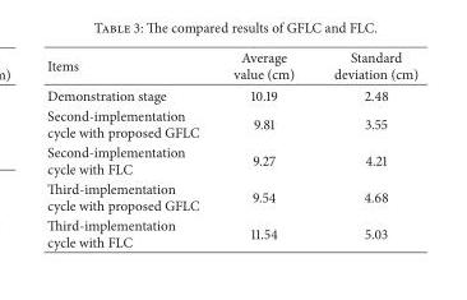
<table><thead><tr><td>Items</td><td>Average value (cm)</td><td>Standard deviation (cm)</td></tr></thead><tbody><tr><td>Demonstration stage</td><td>10.19</td><td>2.48</td></tr><tr><td>Second-implementation cycle with proposed GFLC</td><td>9.81</td><td>3.55</td></tr><tr><td>Second-implementation cycle with FLC</td><td>9.27</td><td>4.21</td></tr><tr><td>Third-implementation cycle with proposed GFLC</td><td>9.54</td><td>4.68</td></tr><tr><td>Third-implementation cycle with FLC</td><td>11.54</td><td>5.03</td></tr></tbody></table>